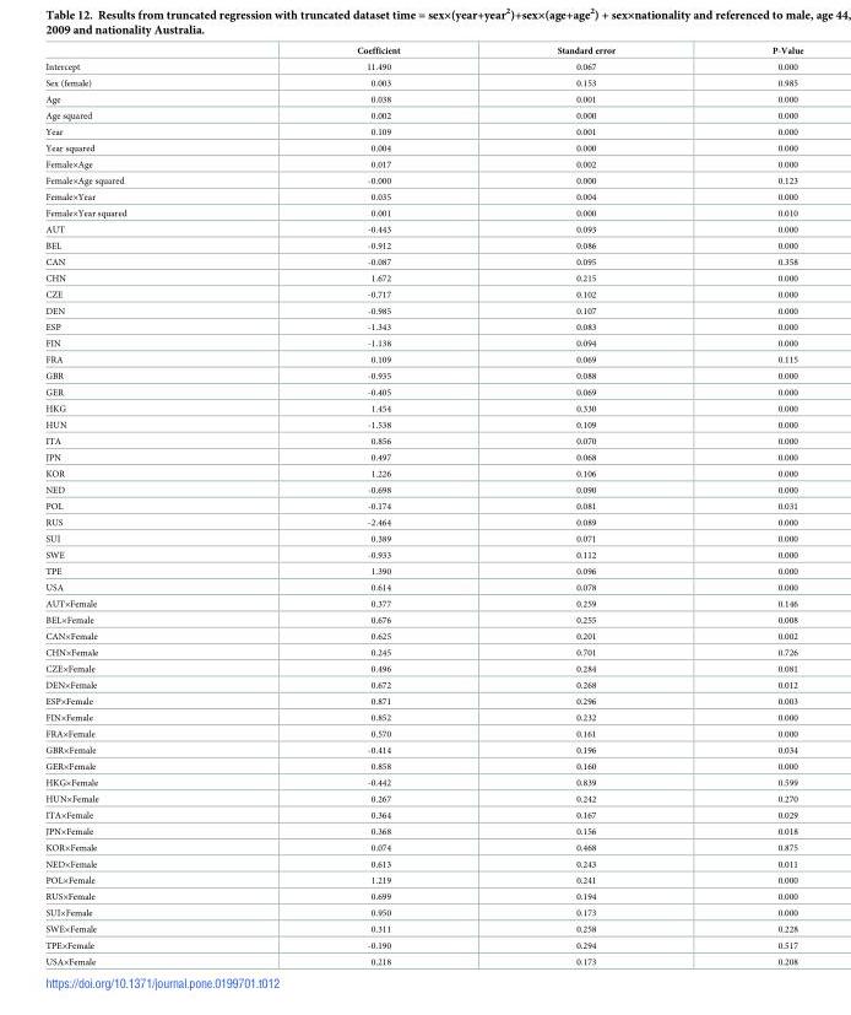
<table><thead><tr><td></td><td>Coefficient</td><td>Standard error</td><td>P-Value</td></tr></thead><tbody><tr><td>Intercept</td><td>11.490</td><td>0.067</td><td>0.000</td></tr><tr><td>Sex (female)</td><td>0.003</td><td>0.153</td><td>0.985</td></tr><tr><td>Age</td><td>0.038</td><td>0.001</td><td>0.000</td></tr><tr><td>Age squared</td><td>0.002</td><td>0.000</td><td>0.000</td></tr><tr><td>Year</td><td>0.109</td><td>0.001</td><td>0.000</td></tr><tr><td>Year squared</td><td>0.004</td><td>0.000</td><td>0.000</td></tr><tr><td>Female×Age</td><td>0.017</td><td>0.002</td><td>0.000</td></tr><tr><td>Female×Age squared</td><td>-0.000</td><td>0.000</td><td>0.123</td></tr><tr><td>Female×Year</td><td>0.035</td><td>0.004</td><td>0.000</td></tr><tr><td>Female×Year squared</td><td>0.001</td><td>0.000</td><td>0.010</td></tr><tr><td>AUT</td><td>-0.443</td><td>0.093</td><td>0.000</td></tr><tr><td>BEL</td><td>-0.912</td><td>0.086</td><td>0.000</td></tr><tr><td>CAN</td><td>-0.087</td><td>0.095</td><td>0.358</td></tr><tr><td>CHN</td><td>1.672</td><td>0.215</td><td>0.000</td></tr><tr><td>CZE</td><td>-0.717</td><td>0.102</td><td>0.000</td></tr><tr><td>DEN</td><td>-0.985</td><td>0.107</td><td>0.000</td></tr><tr><td>ESP</td><td>-1.343</td><td>0.083</td><td>0.000</td></tr><tr><td>FIN</td><td>-1.138</td><td>0.094</td><td>0.000</td></tr><tr><td>FRA</td><td>0.109</td><td>0.069</td><td>0.115</td></tr><tr><td>GBR</td><td>-0.935</td><td>0.088</td><td>0.000</td></tr><tr><td>GER</td><td>-0.405</td><td>0.069</td><td>0.000</td></tr><tr><td>HKG</td><td>1.454</td><td>0.330</td><td>0.000</td></tr><tr><td>HUN</td><td>-1.538</td><td>0.109</td><td>0.000</td></tr><tr><td>ITA</td><td>0.856</td><td>0.070</td><td>0.000</td></tr><tr><td>JPN</td><td>0.497</td><td>0.068</td><td>0.000</td></tr><tr><td>KOR</td><td>1.226</td><td>0.106</td><td>0.000</td></tr><tr><td>NED</td><td>-0.698</td><td>0.090</td><td>0.000</td></tr><tr><td>POL</td><td>-0.174</td><td>0.081</td><td>0.031</td></tr><tr><td>RUS</td><td>-2.464</td><td>0.089</td><td>0.000</td></tr><tr><td>SUI</td><td>0.389</td><td>0.071</td><td>0.000</td></tr><tr><td>SWE</td><td>-0.933</td><td>0.112</td><td>0.000</td></tr><tr><td>TPE</td><td>1.390</td><td>0.096</td><td>0.000</td></tr><tr><td>USA</td><td>0.614</td><td>0.078</td><td>0.000</td></tr><tr><td>AUT×Female</td><td>0.377</td><td>0.259</td><td>0.146</td></tr><tr><td>BEL×Female</td><td>0.676</td><td>0.255</td><td>0.008</td></tr><tr><td>CAN×Female</td><td>0.625</td><td>0.201</td><td>0.002</td></tr><tr><td>CHN×Female</td><td>0.245</td><td>0.701</td><td>0.726</td></tr><tr><td>CZE×Female</td><td>0.496</td><td>0.284</td><td>0.081</td></tr><tr><td>DEN×Female</td><td>0.672</td><td>0.268</td><td>0.012</td></tr><tr><td>ESP×Female</td><td>0.871</td><td>0.296</td><td>0.003</td></tr><tr><td>FIN×Female</td><td>0.852</td><td>0.232</td><td>0.000</td></tr><tr><td>FRA×Female</td><td>0.570</td><td>0.161</td><td>0.000</td></tr><tr><td>GBR×Female</td><td>-0.414</td><td>0.196</td><td>0.034</td></tr><tr><td>GER×Female</td><td>0.858</td><td>0.160</td><td>0.000</td></tr><tr><td>HKG×Female</td><td>-0.442</td><td>0.839</td><td>0.599</td></tr><tr><td>HUN×Female</td><td>0.267</td><td>0.242</td><td>0.270</td></tr><tr><td>ITA×Female</td><td>0.364</td><td>0.167</td><td>0.029</td></tr><tr><td>JPN×Female</td><td>0.368</td><td>0.156</td><td>0.018</td></tr><tr><td>KOR×Female</td><td>0.074</td><td>0.468</td><td>0.875</td></tr><tr><td>NED×Female</td><td>0.613</td><td>0.243</td><td>0.011</td></tr><tr><td>POL×Female</td><td>1.219</td><td>0.241</td><td>0.000</td></tr><tr><td>RUS×Female</td><td>0.699</td><td>0.194</td><td>0.000</td></tr><tr><td>SUI×Female</td><td>0.950</td><td>0.173</td><td>0.000</td></tr><tr><td>SWE×Female</td><td>0.311</td><td>0.258</td><td>0.228</td></tr><tr><td>TPE×Female</td><td>-0.190</td><td>0.294</td><td>0.517</td></tr><tr><td>USA×Female</td><td>0.218</td><td>0.173</td><td>0.208</td></tr></tbody></table>